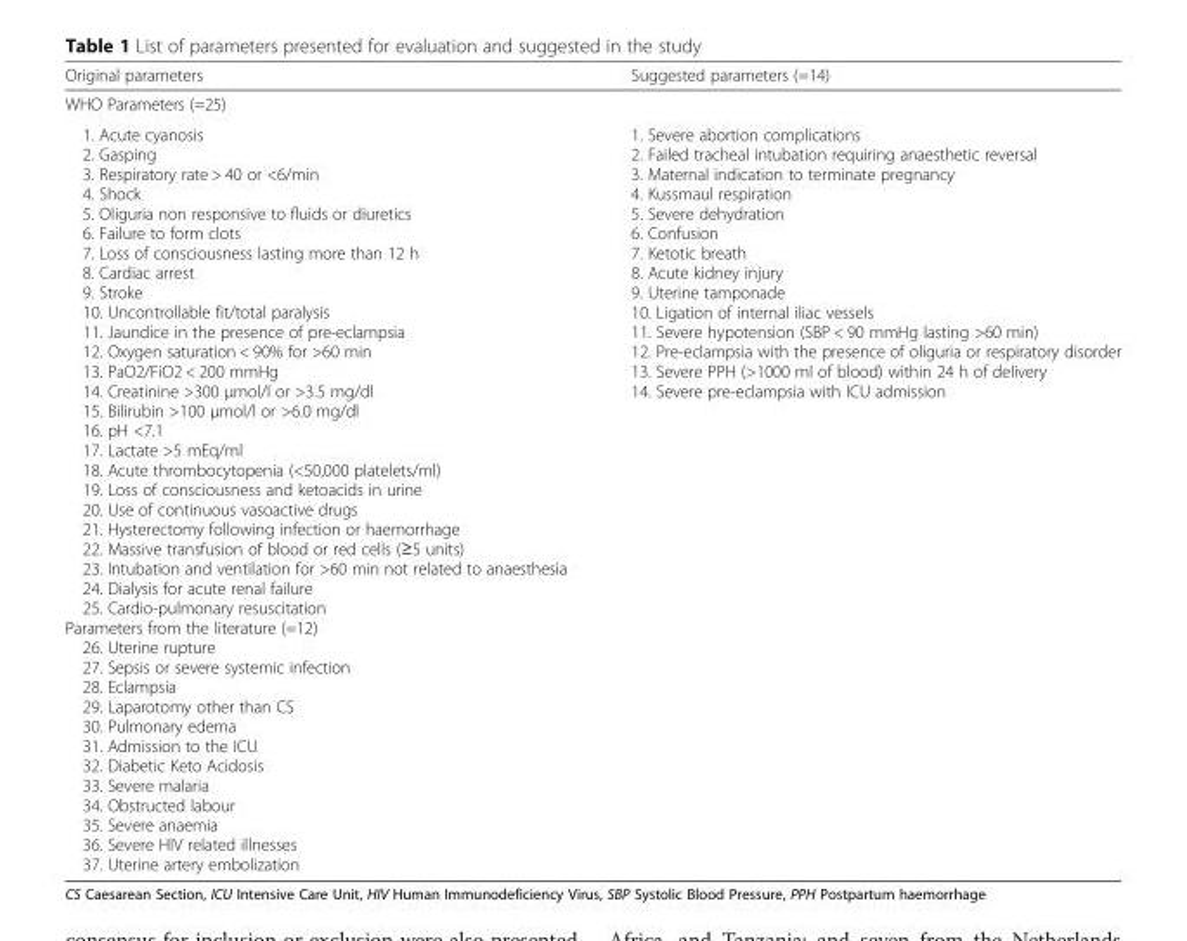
<table><thead><tr><td>Original parameters</td><td>Suggested parameters (=14)</td></tr></thead><tbody><tr><td colspan="2">WHO Parameters (=25)</td></tr><tr><td>1. Acute cyanosis 2. Gasping 3. Respiratory rate &gt; 40 or &lt;6/min 4. Shock 5. Oliguria non responsive to fluids or diuretics 6. Failure to form clots 7. Loss of consciousness lasting more than 12 h 8. Cardiac arrest 9. Stroke 10. Uncontrollable fit/total paralysis 11. Jaundice in the presence of pre-eclampsia 12. Oxygen saturation &lt; 90% for &gt;60 min 13. PaO2/FiO2 &lt; 200 mmHg 14. Creatinine &gt;300 μmol/l or &gt;3.5 mg/dl 15. Bilirubin &gt;100 μmol/l or &gt;6.0 mg/dl 16. pH &lt;7.1 17. Lactate &gt;5 mEq/ml 18. Acute thrombocytopenia (&lt;50,000 platelets/ml) 19. Loss of consciousness and ketoacids in urine 20. Use of continuous vasoactive drugs 21. Hysterectomy following infection or haemorrhage 22. Massive transfusion of blood or red cells (≥5 units) 23. Intubation and ventilation for &gt;60 min not related to anaesthesia 24. Dialysis for acute renal failure 25. Cardio-pulmonary resuscitation Parameters from the literature (=12) 26. Uterine rupture 27. Sepsis or severe systemic infection 28. Eclampsia 29. Laparotomy other than CS 30. Pulmonary edema 31. Admission to the ICU 32. Diabetic Keto Acidosis 33. Severe malaria 34. Obstructed labour 35. Severe anaemia 36. Severe HIV related illnesses 37. Uterine artery embolization</td><td>1. Severe abortion complications 2. Failed tracheal intubation requiring anaesthetic reversal 3. Maternal indication to terminate pregnancy 4. Kussmaul respiration 5. Severe dehydration 6. Confusion 7. Ketotic breath 8. Acute kidney injury 9. Uterine tamponade 10. Ligation of internal iliac vessels 11. Severe hypotension (SBP &lt; 90 mmHg lasting &gt;60 min) 12. Pre-eclampsia with the presence of oliguria or respiratory disorder 13. Severe PPH (&gt;1000 ml of blood) within 24 h of delivery 14. Severe pre-eclampsia with ICU admission</td></tr></tbody></table>